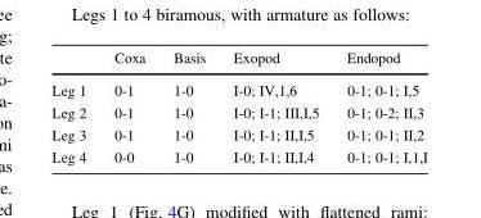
<table><thead><tr><td></td><td>Coxa</td><td>Basis</td><td>Exopod</td><td>Endopod</td></tr></thead><tbody><tr><td>Leg 1</td><td>0-1</td><td>1-0</td><td>I-0; IV,1,6</td><td>0-1; 0-1; I,5</td></tr><tr><td>Leg 2</td><td>0-1</td><td>1-0</td><td>I-0; I-1; III,I,5</td><td>0-1; 0-2; II,3</td></tr><tr><td>Leg 3</td><td>0-1</td><td>1-0</td><td>I-0; I-1; II,I,5</td><td>0-1; 0-1; II,2</td></tr><tr><td>Leg 4</td><td>0-0</td><td>1-0</td><td>I-0; I-1; II,I,4</td><td>0-1; 0-1; I,1,I</td></tr></tbody></table>